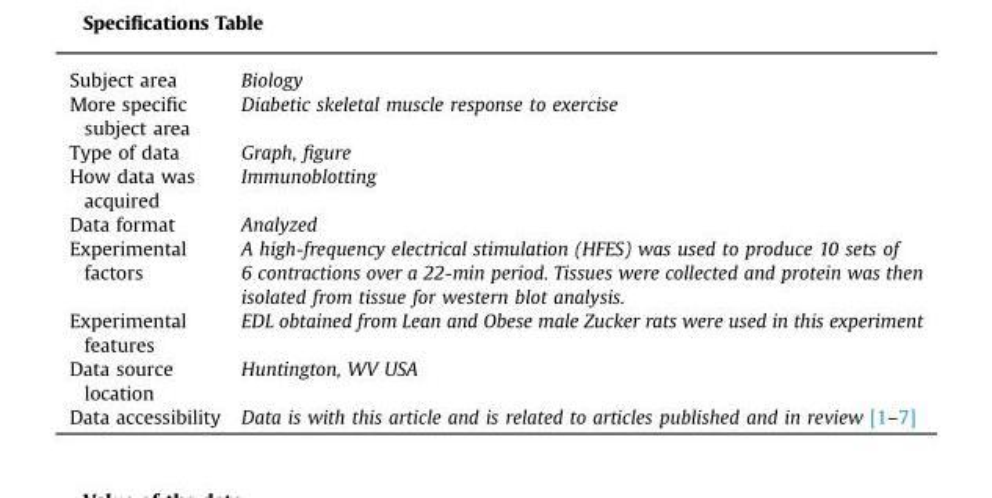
<table><tbody><tr><td>Subject area</td><td>Biology</td></tr><tr><td>More specific subject area</td><td>Diabetic skeletal muscle response to exercise</td></tr><tr><td>Type of data</td><td>Graph, figure</td></tr><tr><td>How data was acquired</td><td>Immunoblotting</td></tr><tr><td>Data format</td><td>Analyzed</td></tr><tr><td>Experimental factors</td><td>A high-frequency electrical stimulation (HFES) was used to produce 10 sets of 6 contractions over a 22-min period. Tissues were collected and protein was then isolated from tissue for western blot analysis.</td></tr><tr><td>Experimental features</td><td>EDL obtained from Lean and Obese male Zucker rats were used in this experiment</td></tr><tr><td>Data source location</td><td>Huntington, WV USA</td></tr><tr><td>Data accessibility</td><td>Data is with this article and is related to articles published and in review [1–7]</td></tr></tbody></table>